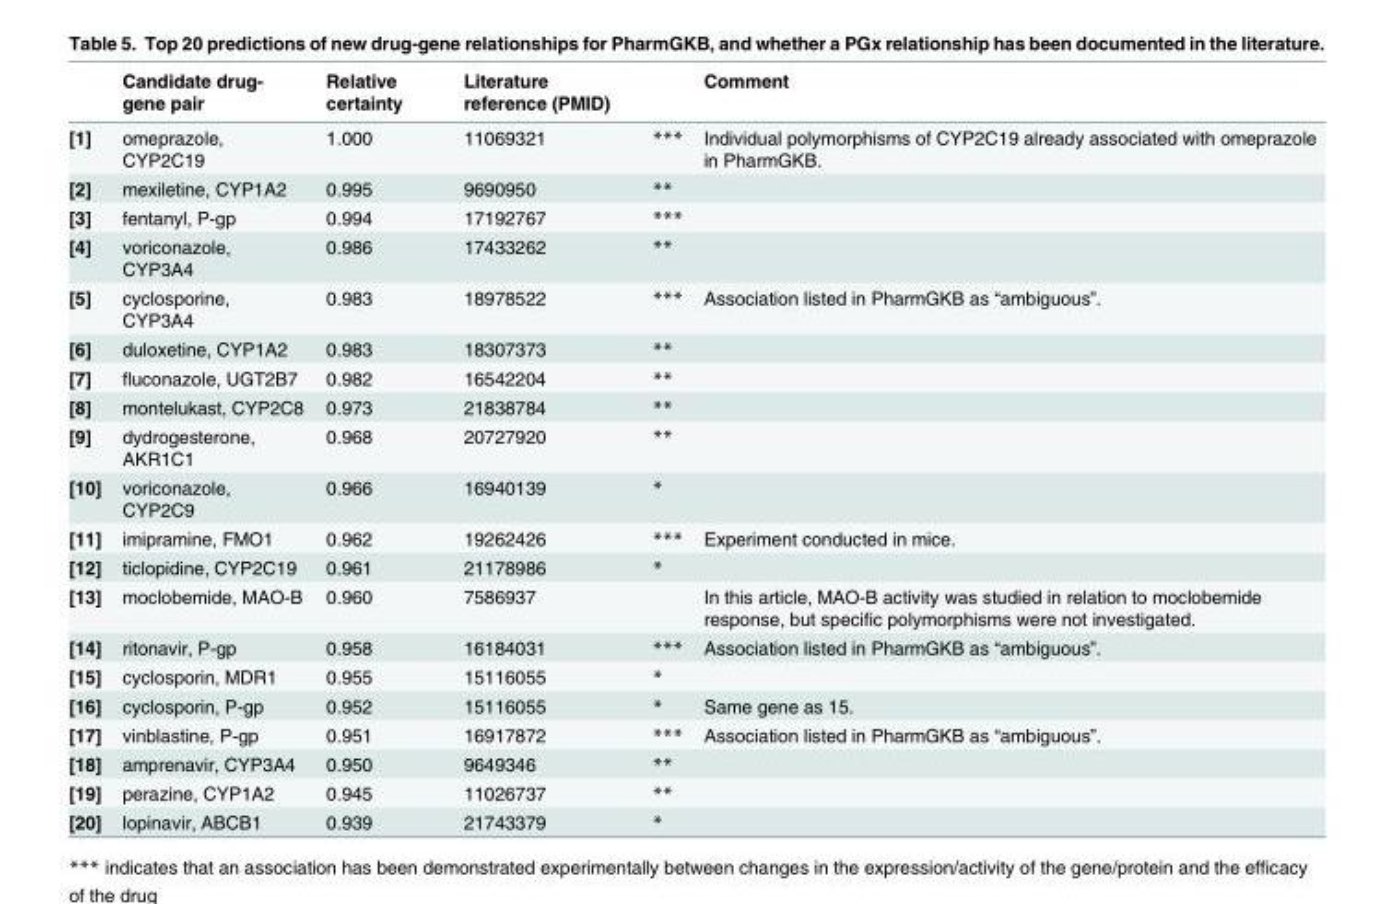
<table><thead><tr><td></td><td>Candidate drug- gene pair</td><td>Relative certainty</td><td>Literature reference (PMID)</td><td></td><td>Comment</td></tr></thead><tbody><tr><td>[1]</td><td>omeprazole, CYP2C19</td><td>1.000</td><td>11069321</td><td>***</td><td>Individual polymorphisms of CYP2C19 already associated with omeprazole in PharmGKB.</td></tr><tr><td>[2]</td><td>mexiletine, CYP1A2</td><td>0.995</td><td>9690950</td><td>**</td><td></td></tr><tr><td>[3]</td><td>fentanyl, P-gp</td><td>0.994</td><td>17192767</td><td>***</td><td></td></tr><tr><td>[4]</td><td>voriconazole, CYP3A4</td><td>0.986</td><td>17433262</td><td>**</td><td></td></tr><tr><td>[5]</td><td>cyclosporine, CYP3A4</td><td>0.983</td><td>18978522</td><td>***</td><td>Association listed in PharmGKB as “ambiguous”.</td></tr><tr><td>[6]</td><td>duloxetine, CYP1A2</td><td>0.983</td><td>18307373</td><td>**</td><td></td></tr><tr><td>[7]</td><td>fluconazole, UGT2B7</td><td>0.982</td><td>16542204</td><td>**</td><td></td></tr><tr><td>[8]</td><td>montelukast, CYP2C8</td><td>0.973</td><td>21838784</td><td>**</td><td></td></tr><tr><td>[9]</td><td>dydrogesterone, AKR1C1</td><td>0.968</td><td>20727920</td><td>**</td><td></td></tr><tr><td>[10]</td><td>voriconazole, CYP2C9</td><td>0.966</td><td>16940139</td><td>*</td><td></td></tr><tr><td>[11]</td><td>imipramine, FMO1</td><td>0.962</td><td>19262426</td><td>***</td><td>Experiment conducted in mice.</td></tr><tr><td>[12]</td><td>ticlopidine, CYP2C19</td><td>0.961</td><td>21178986</td><td>*</td><td></td></tr><tr><td>[13]</td><td>moclobemide, MAO-B</td><td>0.960</td><td>7586937</td><td></td><td>In this article, MAO-B activity was studied in relation to moclobemide response, but specific polymorphisms were not investigated.</td></tr><tr><td>[14]</td><td>ritonavir, P-gp</td><td>0.958</td><td>16184031</td><td>***</td><td>Association listed in PharmGKB as “ambiguous”.</td></tr><tr><td>[15]</td><td>cyclosporin, MDR1</td><td>0.955</td><td>15116055</td><td>*</td><td></td></tr><tr><td>[16]</td><td>cyclosporin, P-gp</td><td>0.952</td><td>15116055</td><td>*</td><td>Same gene as 15.</td></tr><tr><td>[17]</td><td>vinblastine, P-gp</td><td>0.951</td><td>16917872</td><td>***</td><td>Association listed in PharmGKB as “ambiguous”.</td></tr><tr><td>[18]</td><td>amprenavir, CYP3A4</td><td>0.950</td><td>9649346</td><td>**</td><td></td></tr><tr><td>[19]</td><td>perazine, CYP1A2</td><td>0.945</td><td>11026737</td><td>**</td><td></td></tr><tr><td>[20]</td><td>lopinavir, ABCB1</td><td>0.939</td><td>21743379</td><td>*</td><td></td></tr></tbody></table>